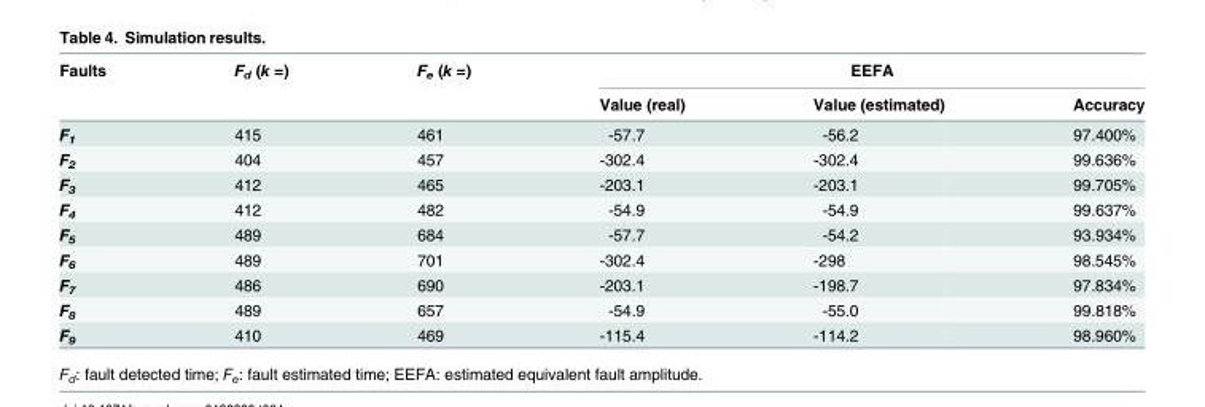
<table><thead><tr><td rowspan="2">Faults</td><td rowspan="2">F<sub>d</sub> (k =)</td><td rowspan="2">F<sub>e</sub> (k =)</td><td colspan="3">EEFA</td></tr><tr><td>Value (real)</td><td>Value (estimated)</td><td>Accuracy</td></tr></thead><tbody><tr><td>F<sub>1</sub></td><td>415</td><td>461</td><td>-57.7</td><td>-56.2</td><td>97.400%</td></tr><tr><td>F<sub>2</sub></td><td>404</td><td>457</td><td>-302.4</td><td>-302.4</td><td>99.636%</td></tr><tr><td>F<sub>3</sub></td><td>412</td><td>465</td><td>-203.1</td><td>-203.1</td><td>99.705%</td></tr><tr><td>F<sub>4</sub></td><td>412</td><td>482</td><td>-54.9</td><td>-54.9</td><td>99.637%</td></tr><tr><td>F<sub>5</sub></td><td>489</td><td>684</td><td>-57.7</td><td>-54.2</td><td>93.934%</td></tr><tr><td>F<sub>6</sub></td><td>489</td><td>701</td><td>-302.4</td><td>-298</td><td>98.545%</td></tr><tr><td>F<sub>7</sub></td><td>486</td><td>690</td><td>-203.1</td><td>-198.7</td><td>97.834%</td></tr><tr><td>F<sub>8</sub></td><td>489</td><td>657</td><td>-54.9</td><td>-55.0</td><td>99.818%</td></tr><tr><td>F<sub>9</sub></td><td>410</td><td>469</td><td>-115.4</td><td>-114.2</td><td>98.960%</td></tr></tbody></table>